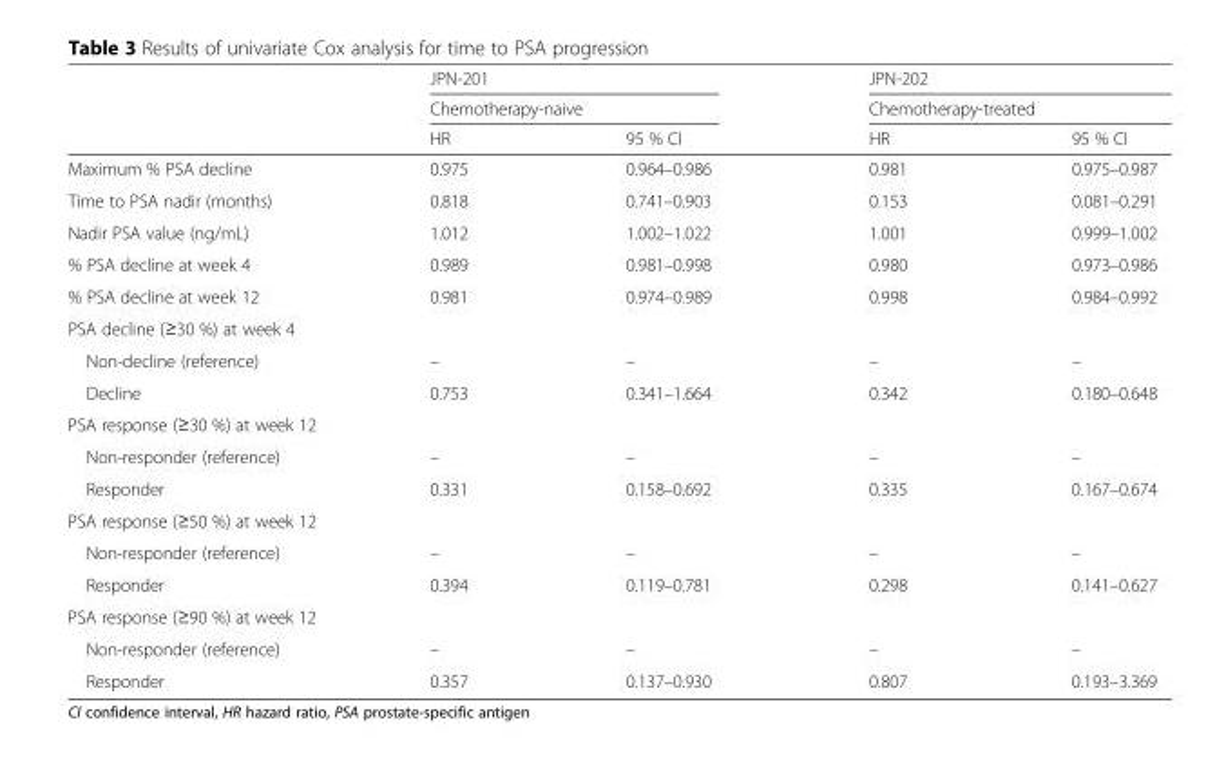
<table><thead><tr><td rowspan="3"></td><td rowspan="2" colspan="2">JPN-201 Chemotherapy-naive</td><td rowspan="2" colspan="2">JPN-202 Chemotherapy-treated</td></tr><tr></tr><tr><td>HR</td><td>95 % CI</td><td>HR</td><td>95 % CI</td></tr></thead><tbody><tr><td>Maximum % PSA decline</td><td>0.975</td><td>0.964–0.986</td><td>0.981</td><td>0.975–0.987</td></tr><tr><td>Time to PSA nadir (months)</td><td>0.818</td><td>0.741–0.903</td><td>0.153</td><td>0.081–0.291</td></tr><tr><td>Nadir PSA value (ng/mL)</td><td>1.012</td><td>1.002–1.022</td><td>1.001</td><td>0.999–1.002</td></tr><tr><td>% PSA decline at week 4</td><td>0.989</td><td>0.981–0.998</td><td>0.980</td><td>0.973–0.986</td></tr><tr><td>% PSA decline at week 12</td><td>0.981</td><td>0.974–0.989</td><td>0.998</td><td>0.984–0.992</td></tr><tr><td colspan="5">PSA decline (≥30 %) at week 4</td></tr><tr><td>Non-decline (reference)</td><td>–</td><td>–</td><td>–</td><td>–</td></tr><tr><td>Decline</td><td>0.753</td><td>0.341–1.664</td><td>0.342</td><td>0.180–0.648</td></tr><tr><td colspan="5">PSA response (≥30 %) at week 12</td></tr><tr><td>Non-responder (reference)</td><td>–</td><td>–</td><td>–</td><td>–</td></tr><tr><td>Responder</td><td>0.331</td><td>0.158–0.692</td><td>0.335</td><td>0.167–0.674</td></tr><tr><td colspan="5">PSA response (≥50 %) at week 12</td></tr><tr><td>Non-responder (reference)</td><td>–</td><td>–</td><td>–</td><td>–</td></tr><tr><td>Responder</td><td>0.394</td><td>0.119–0.781</td><td>0.298</td><td>0.141–0.627</td></tr><tr><td colspan="5">PSA response (≥90 %) at week 12</td></tr><tr><td>Non-responder (reference)</td><td>–</td><td>–</td><td>–</td><td>–</td></tr><tr><td>Responder</td><td>0.357</td><td>0.137–0.930</td><td>0.807</td><td>0.193–3.369</td></tr></tbody></table>